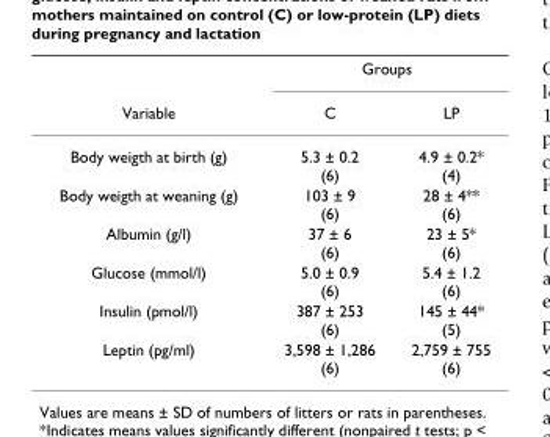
<table><thead><tr><td rowspan="2">Variable</td><td colspan="2">Groups</td></tr><tr><td>C</td><td>LP</td></tr></thead><tbody><tr><td>Body weigth at birth (g)</td><td>5.3 ± 0.2 (6)</td><td>4.9 ± 0.2* (4)</td></tr><tr><td>Body weigth at weaning (g)</td><td>103 ± 9 (6)</td><td>28 ± 4** (6)</td></tr><tr><td>Albumin (g/l)</td><td>37 ± 6 (6)</td><td>23 ± 5* (6)</td></tr><tr><td>Glucose (mmol/l)</td><td>5.0 ± 0.9 (6)</td><td>5.4 ± 1.2 (6)</td></tr><tr><td>Insulin (pmol/l)</td><td>387 ± 253 (6)</td><td>145 ± 44* (5)</td></tr><tr><td>Leptin (pg/ml)</td><td>3,598 ± 1,286 (6)</td><td>2,759 ± 755 (6)</td></tr></tbody></table>